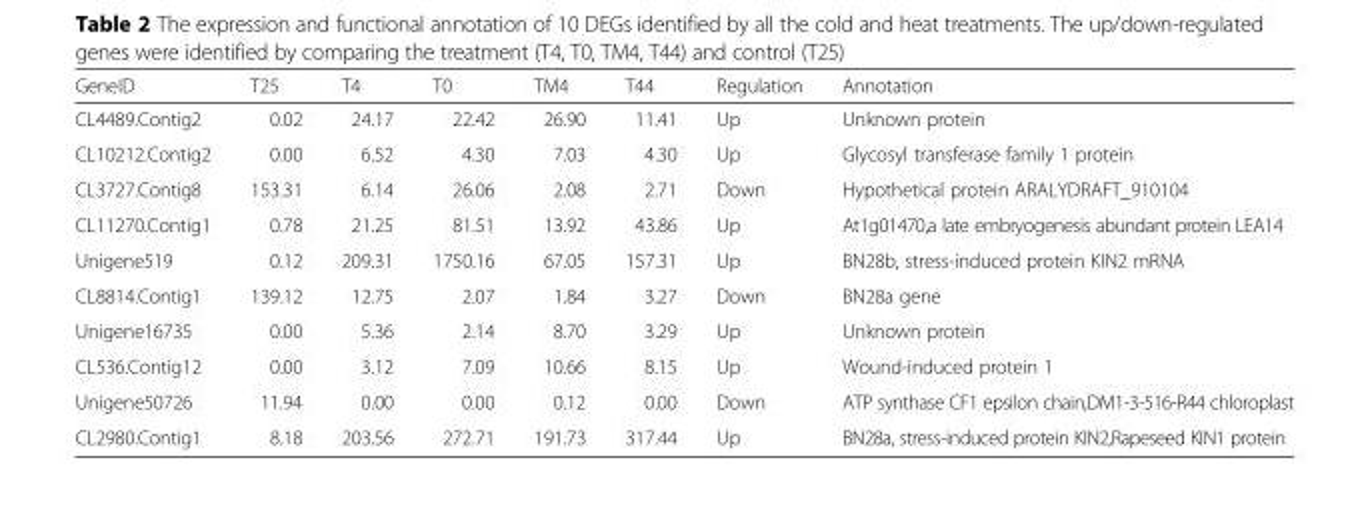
<table><thead><tr><td>GeneID</td><td>T25</td><td>T4</td><td>T0</td><td>TM4</td><td>T44</td><td>Regulation</td><td>Annotation</td></tr></thead><tbody><tr><td>CL4489.Contig2</td><td>0.02</td><td>24.17</td><td>22.42</td><td>26.90</td><td>11.41</td><td>Up</td><td>Unknown protein</td></tr><tr><td>CL10212.Contig2</td><td>0.00</td><td>6.52</td><td>4.30</td><td>7.03</td><td>4.30</td><td>Up</td><td>Glycosyl transferase family 1 protein</td></tr><tr><td>CL3727.Contig8</td><td>153.31</td><td>6.14</td><td>26.06</td><td>2.08</td><td>2.71</td><td>Down</td><td>Hypothetical protein ARALYDRAFT_910104</td></tr><tr><td>CL11270.Contig1</td><td>0.78</td><td>21.25</td><td>81.51</td><td>13.92</td><td>43.86</td><td>Up</td><td>At1g01470,a late embryogenesis abundant protein LEA14</td></tr><tr><td>Unigene519</td><td>0.12</td><td>209.31</td><td>1750.16</td><td>67.05</td><td>157.31</td><td>Up</td><td>BN28b, stress-induced protein KIN2 mRNA</td></tr><tr><td>CL8814.Contig1</td><td>139.12</td><td>12.75</td><td>2.07</td><td>1.84</td><td>3.27</td><td>Down</td><td>BN28a gene</td></tr><tr><td>Unigene16735</td><td>0.00</td><td>5.36</td><td>2.14</td><td>8.70</td><td>3.29</td><td>Up</td><td>Unknown protein</td></tr><tr><td>CL536.Contig12</td><td>0.00</td><td>3.12</td><td>7.09</td><td>10.66</td><td>8.15</td><td>Up</td><td>Wound-induced protein 1</td></tr><tr><td>Unigene50726</td><td>11.94</td><td>0.00</td><td>0.00</td><td>0.12</td><td>0.00</td><td>Down</td><td>ATP synthase CF1 epsilon chain,DM1-3-516-R44 chloroplast</td></tr><tr><td>CL2980.Contig1</td><td>8.18</td><td>203.56</td><td>272.71</td><td>191.73</td><td>317.44</td><td>Up</td><td>BN28a, stress-induced protein KIN2,Rapeseed KIN1 protein</td></tr></tbody></table>